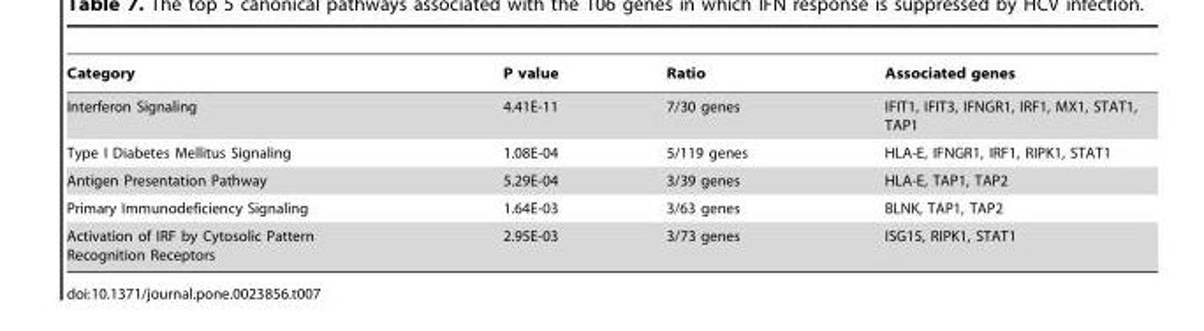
<table><thead><tr><td>Category</td><td>P value</td><td>Ratio</td><td>Associated genes</td></tr></thead><tbody><tr><td>Interferon Signaling</td><td>4.41E-11</td><td>7/30 genes</td><td>IFIT1, IFIT3, IFNGR1, IRF1, MX1, STAT1, TAP1</td></tr><tr><td>Type I Diabetes Mellitus Signaling</td><td>1.08E-04</td><td>5/119 genes</td><td>HLA-E, IFNGR1, IRF1, RIPK1, STAT1</td></tr><tr><td>Antigen Presentation Pathway</td><td>5.29E-04</td><td>3/39 genes</td><td>HLA-E, TAP1, TAP2</td></tr><tr><td>Primary Immunodeficiency Signaling</td><td>1.64E-03</td><td>3/63 genes</td><td>BLNK, TAP1, TAP2</td></tr><tr><td>Activation of IRF by Cytosolic Pattern Recognition Receptors</td><td>2.95E-03</td><td>3/73 genes</td><td>ISG15, RIPK1, STAT1</td></tr></tbody></table>